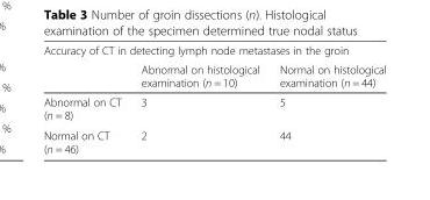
<table><thead><tr><td colspan="3">Accuracy of CT in detecting lymph node metastases in the groin</td></tr><tr><td></td><td>Abnormal on histological examination (n = 10)</td><td>Normal on histological examination (n = 44)</td></tr></thead><tbody><tr><td>Abnormal on CT (n = 8)</td><td>3</td><td>5</td></tr><tr><td>Normal on CT (n = 46)</td><td>2</td><td>44</td></tr></tbody></table>